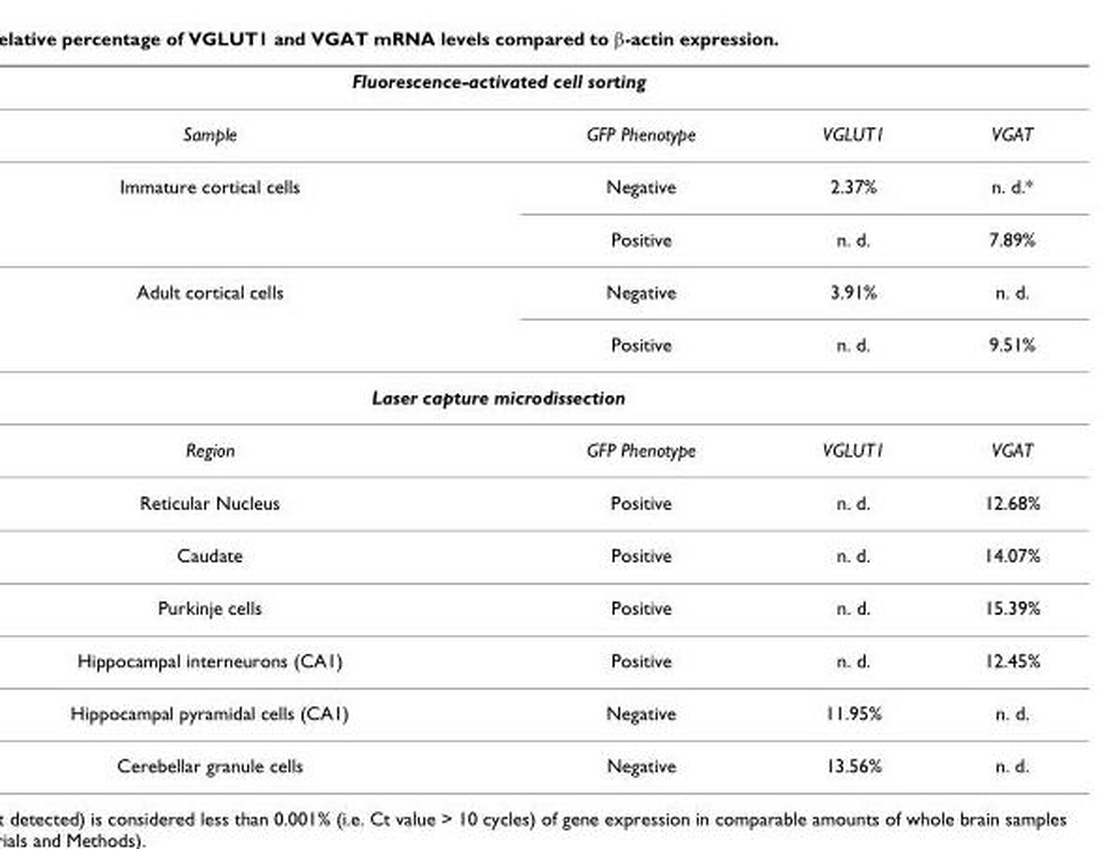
<table><thead><tr><td colspan="4">Fluorescence-activated cell sorting</td></tr><tr><td>Sample</td><td>GFP Phenotype</td><td>VGLUT1</td><td>VGAT</td></tr></thead><tbody><tr><td rowspan="2">Immature cortical cells</td><td>Negative</td><td>2.37%</td><td>n. d.*</td></tr><tr><td>Positive</td><td>n. d.</td><td>7.89%</td></tr><tr><td rowspan="2">Adult cortical cells</td><td>Negative</td><td>3.91%</td><td>n. d.</td></tr><tr><td>Positive</td><td>n. d.</td><td>9.51%</td></tr><tr><td colspan="4">Laser capture microdissection</td></tr><tr><td>Region</td><td>GFP Phenotype</td><td>VGLUT1</td><td>VGAT</td></tr><tr><td>Reticular Nucleus</td><td>Positive</td><td>n. d.</td><td>12.68%</td></tr><tr><td>Caudate</td><td>Positive</td><td>n. d.</td><td>14.07%</td></tr><tr><td>Purkinje cells</td><td>Positive</td><td>n. d.</td><td>15.39%</td></tr><tr><td>Hippocampal interneurons (CA1)</td><td>Positive</td><td>n. d.</td><td>12.45%</td></tr><tr><td>Hippocampal pyramidal cells (CA1)</td><td>Negative</td><td>11.95%</td><td>n. d.</td></tr><tr><td>Cerebellar granule cells</td><td>Negative</td><td>13.56%</td><td>n. d.</td></tr></tbody></table>